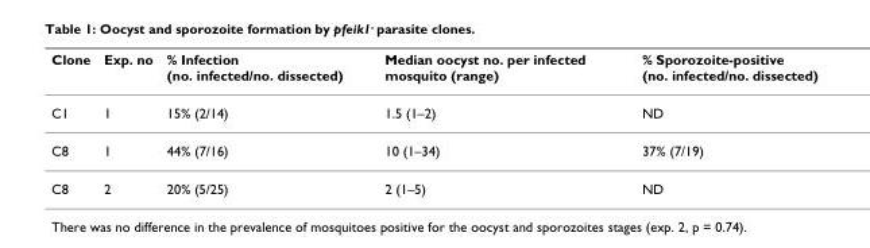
<table><thead><tr><td>Clone</td><td>Exp. no</td><td>% Infection (no. infected/no. dissected)</td><td>Median oocyst no. per infected mosquito (range)</td><td>% Sporozoite-positive (no. infected/no. dissected)</td></tr></thead><tbody><tr><td>C1</td><td>1</td><td>15% (2/14)</td><td>1.5 (1–2)</td><td>ND</td></tr><tr><td>C8</td><td>1</td><td>44% (7/16)</td><td>10 (1–34)</td><td>37% (7/19)</td></tr><tr><td>C8</td><td>2</td><td>20% (5/25)</td><td>2 (1–5)</td><td>ND</td></tr></tbody></table>